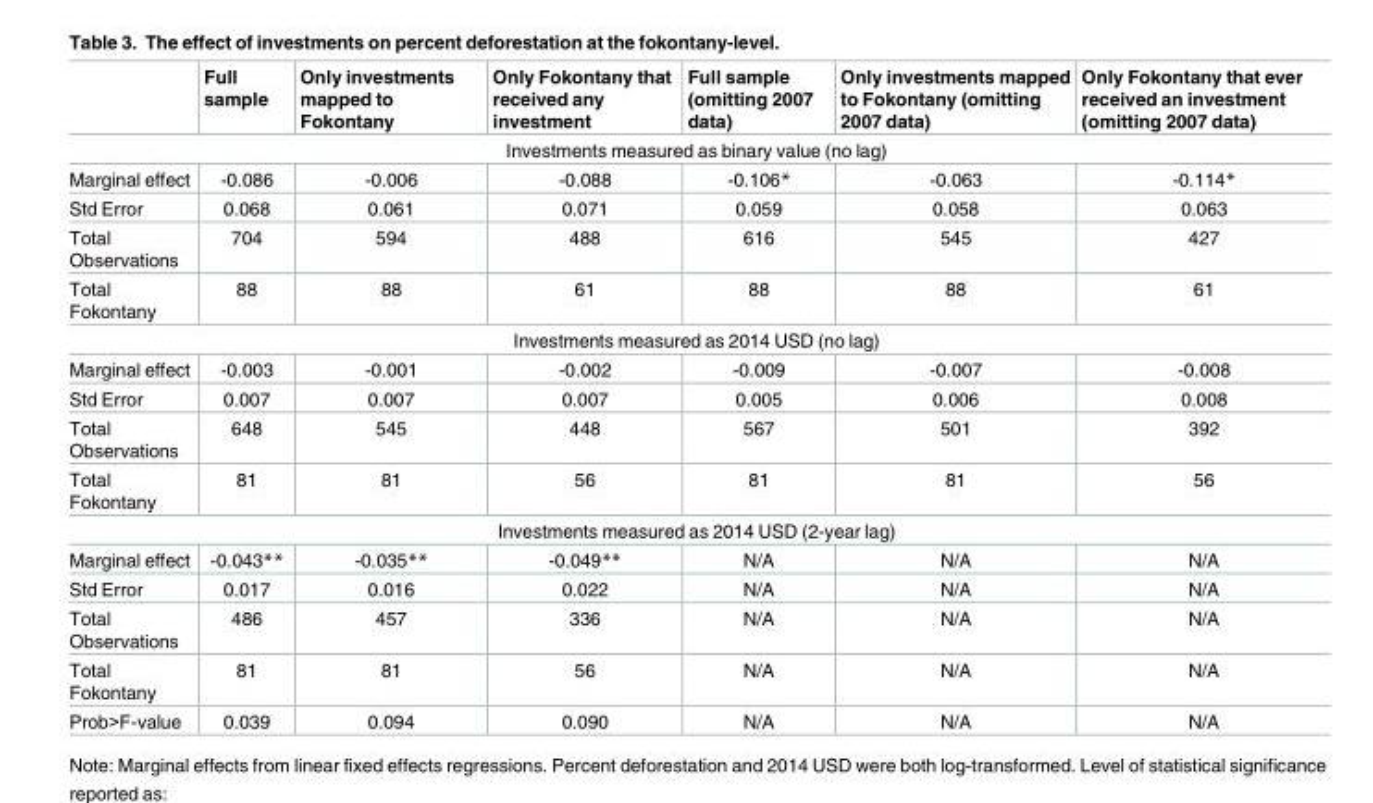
<table><thead><tr><td></td><td>Full sample</td><td>Only investments mapped to Fokontany</td><td>Only Fokontany that received any investment</td><td>Full sample (omitting 2007 data)</td><td>Only investments mapped to Fokontany (omitting 2007 data)</td><td>Only Fokontany that ever received an investment (omitting 2007 data)</td></tr></thead><tbody><tr><td colspan="7">Investments measured as binary value (no lag)</td></tr><tr><td>Marginal effect</td><td>-0.086</td><td>-0.006</td><td>-0.088</td><td>-0.106*</td><td>-0.063</td><td>-0.114*</td></tr><tr><td>Std Error</td><td>0.068</td><td>0.061</td><td>0.071</td><td>0.059</td><td>0.058</td><td>0.063</td></tr><tr><td>Total Observations</td><td>704</td><td>594</td><td>488</td><td>616</td><td>545</td><td>427</td></tr><tr><td>Total Fokontany</td><td>88</td><td>88</td><td>61</td><td>88</td><td>88</td><td>61</td></tr><tr><td colspan="7">Investments measured as 2014 USD (no lag)</td></tr><tr><td>Marginal effect</td><td>-0.003</td><td>-0.001</td><td>-0.002</td><td>-0.009</td><td>-0.007</td><td>-0.008</td></tr><tr><td>Std Error</td><td>0.007</td><td>0.007</td><td>0.007</td><td>0.005</td><td>0.006</td><td>0.008</td></tr><tr><td>Total Observations</td><td>648</td><td>545</td><td>448</td><td>567</td><td>501</td><td>392</td></tr><tr><td>Total Fokontany</td><td>81</td><td>81</td><td>56</td><td>81</td><td>81</td><td>56</td></tr><tr><td colspan="7">Investments measured as 2014 USD (2-year lag)</td></tr><tr><td>Marginal effect</td><td>-0.043**</td><td>-0.035**</td><td>-0.049**</td><td>N/A</td><td>N/A</td><td>N/A</td></tr><tr><td>Std Error</td><td>0.017</td><td>0.016</td><td>0.022</td><td>N/A</td><td>N/A</td><td>N/A</td></tr><tr><td>Total Observations</td><td>486</td><td>457</td><td>336</td><td>N/A</td><td>N/A</td><td>N/A</td></tr><tr><td>Total Fokontany</td><td>81</td><td>81</td><td>56</td><td>N/A</td><td>N/A</td><td>N/A</td></tr><tr><td>Prob&gt;F-value</td><td>0.039</td><td>0.094</td><td>0.090</td><td>N/A</td><td>N/A</td><td>N/A</td></tr></tbody></table>